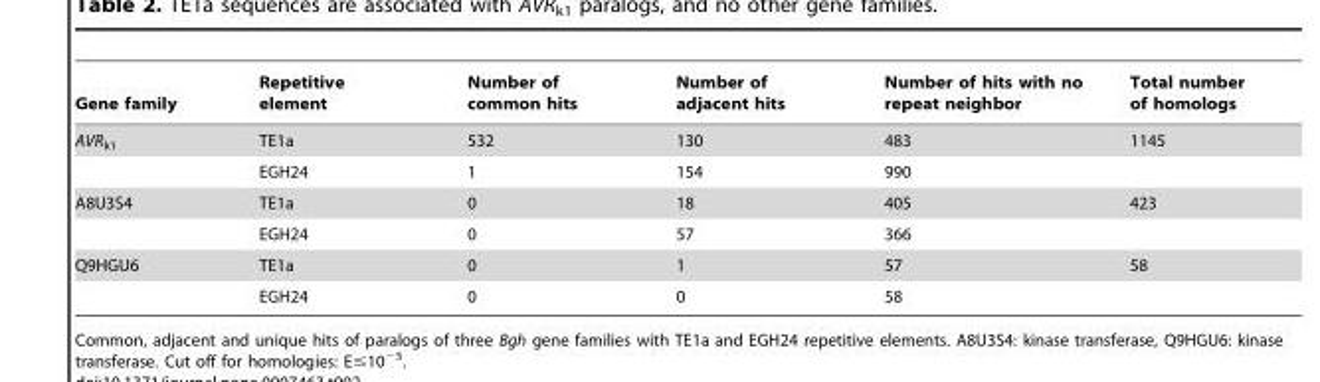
<table><thead><tr><td>Gene family</td><td>Repetitive element</td><td>Number of common hits</td><td>Number of adjacent hits</td><td>Number of hits with no repeat neighbor</td><td>Total number of homologs</td></tr></thead><tbody><tr><td rowspan="2">AVR<sub>k1</sub></td><td>TE1a</td><td>532</td><td>130</td><td>483</td><td>1145</td></tr><tr><td>EGH24</td><td>1</td><td>154</td><td>990</td><td></td></tr><tr><td rowspan="2">A8U3S4</td><td>TE1a</td><td>0</td><td>18</td><td>405</td><td>423</td></tr><tr><td>EGH24</td><td>0</td><td>57</td><td>366</td><td></td></tr><tr><td rowspan="2">Q9HGU6</td><td>TE1a</td><td>0</td><td>1</td><td>57</td><td>58</td></tr><tr><td>EGH24</td><td>0</td><td>0</td><td>58</td><td></td></tr></tbody></table>